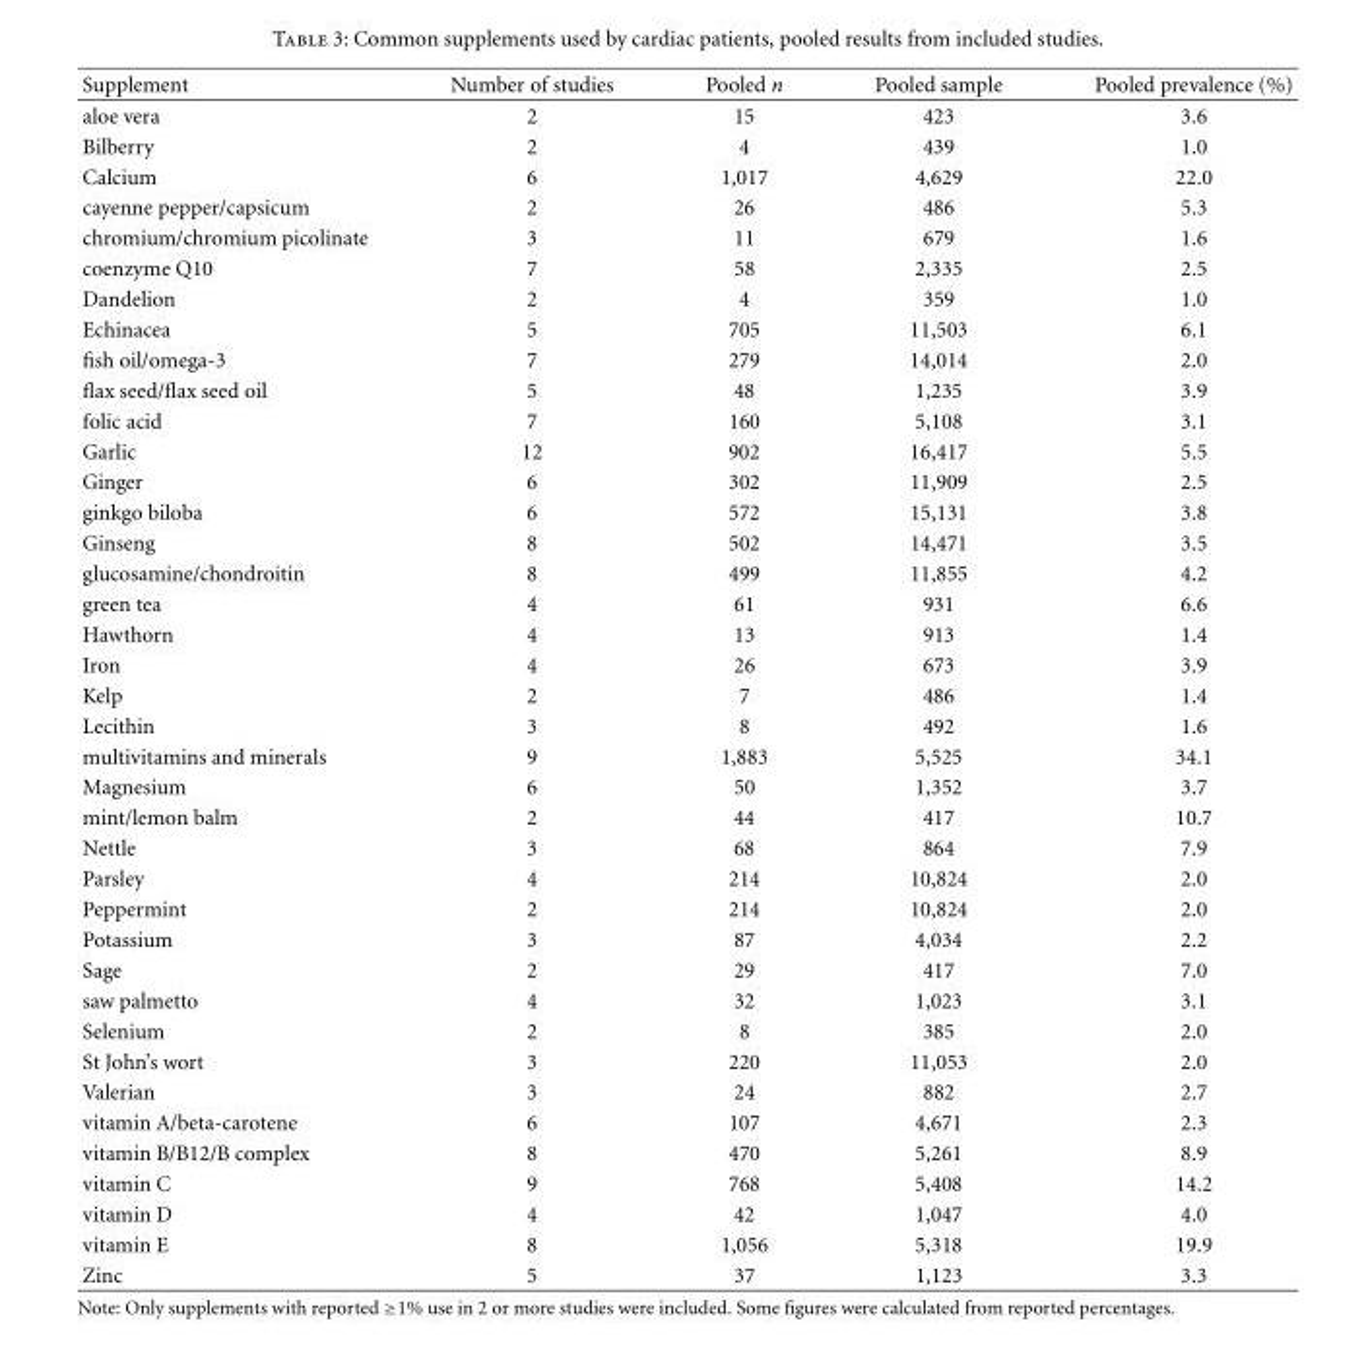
<table><thead><tr><td>Supplement</td><td>Number of studies</td><td>Pooled n</td><td>Pooled sample</td><td>Pooled prevalence (%)</td></tr></thead><tbody><tr><td>aloe vera</td><td>2</td><td>15</td><td>423</td><td>3.6</td></tr><tr><td>Bilberry</td><td>2</td><td>4</td><td>439</td><td>1.0</td></tr><tr><td>Calcium</td><td>6</td><td>1,017</td><td>4,629</td><td>22.0</td></tr><tr><td>cayenne pepper/capsicum</td><td>2</td><td>26</td><td>486</td><td>5.3</td></tr><tr><td>chromium/chromium picolinate</td><td>3</td><td>11</td><td>679</td><td>1.6</td></tr><tr><td>coenzyme Q10</td><td>7</td><td>58</td><td>2,335</td><td>2.5</td></tr><tr><td>Dandelion</td><td>2</td><td>4</td><td>359</td><td>1.0</td></tr><tr><td>Echinacea</td><td>5</td><td>705</td><td>11,503</td><td>6.1</td></tr><tr><td>fish oil/omega-3</td><td>7</td><td>279</td><td>14,014</td><td>2.0</td></tr><tr><td>flax seed/flax seed oil</td><td>5</td><td>48</td><td>1,235</td><td>3.9</td></tr><tr><td>folic acid</td><td>7</td><td>160</td><td>5,108</td><td>3.1</td></tr><tr><td>Garlic</td><td>12</td><td>902</td><td>16,417</td><td>5.5</td></tr><tr><td>Ginger</td><td>6</td><td>302</td><td>11,909</td><td>2.5</td></tr><tr><td>ginkgo biloba</td><td>6</td><td>572</td><td>15,131</td><td>3.8</td></tr><tr><td>Ginseng</td><td>8</td><td>502</td><td>14,471</td><td>3.5</td></tr><tr><td>glucosamine/chondroitin</td><td>8</td><td>499</td><td>11,855</td><td>4.2</td></tr><tr><td>green tea</td><td>4</td><td>61</td><td>931</td><td>6.6</td></tr><tr><td>Hawthorn</td><td>4</td><td>13</td><td>913</td><td>1.4</td></tr><tr><td>Iron</td><td>4</td><td>26</td><td>673</td><td>3.9</td></tr><tr><td>Kelp</td><td>2</td><td>7</td><td>486</td><td>1.4</td></tr><tr><td>Lecithin</td><td>3</td><td>8</td><td>492</td><td>1.6</td></tr><tr><td>multivitamins and minerals</td><td>9</td><td>1,883</td><td>5,525</td><td>34.1</td></tr><tr><td>Magnesium</td><td>6</td><td>50</td><td>1,352</td><td>3.7</td></tr><tr><td>mint/lemon balm</td><td>2</td><td>44</td><td>417</td><td>10.7</td></tr><tr><td>Nettle</td><td>3</td><td>68</td><td>864</td><td>7.9</td></tr><tr><td>Parsley</td><td>4</td><td>214</td><td>10,824</td><td>2.0</td></tr><tr><td>Peppermint</td><td>2</td><td>214</td><td>10,824</td><td>2.0</td></tr><tr><td>Potassium</td><td>3</td><td>87</td><td>4,034</td><td>2.2</td></tr><tr><td>Sage</td><td>2</td><td>29</td><td>417</td><td>7.0</td></tr><tr><td>saw palmetto</td><td>4</td><td>32</td><td>1,023</td><td>3.1</td></tr><tr><td>Selenium</td><td>2</td><td>8</td><td>385</td><td>2.0</td></tr><tr><td>St John’s wort</td><td>3</td><td>220</td><td>11,053</td><td>2.0</td></tr><tr><td>Valerian</td><td>3</td><td>24</td><td>882</td><td>2.7</td></tr><tr><td>vitamin A/beta-carotene</td><td>6</td><td>107</td><td>4,671</td><td>2.3</td></tr><tr><td>vitamin B/B12/B complex</td><td>8</td><td>470</td><td>5,261</td><td>8.9</td></tr><tr><td>vitamin C</td><td>9</td><td>768</td><td>5,408</td><td>14.2</td></tr><tr><td>vitamin D</td><td>4</td><td>42</td><td>1,047</td><td>4.0</td></tr><tr><td>vitamin E</td><td>8</td><td>1,056</td><td>5,318</td><td>19.9</td></tr><tr><td>Zinc</td><td>5</td><td>37</td><td>1,123</td><td>3.3</td></tr></tbody></table>